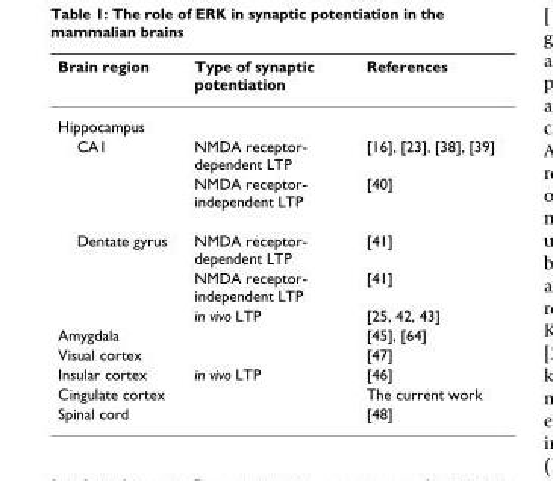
<table><thead><tr><td>Brain region</td><td>Type of synaptic potentiation</td><td>References</td></tr></thead><tbody><tr><td colspan="3">Hippocampus</td></tr><tr><td rowspan="2">CA1</td><td>NMDA receptor- dependent LTP</td><td>[16], [23], [38], [39]</td></tr><tr><td>NMDA receptor- independent LTP</td><td>[40]</td></tr><tr><td rowspan="3">Dentate gyrus</td><td>NMDA receptor- dependent LTP</td><td>[41]</td></tr><tr><td>NMDA receptor- independent LTP</td><td>[41]</td></tr><tr><td>in vivo LTP</td><td>[25, 42, 43]</td></tr><tr><td>Amygdala</td><td></td><td>[45], [64]</td></tr><tr><td>Visual cortex</td><td></td><td>[47]</td></tr><tr><td>Insular cortex</td><td>in vivo LTP</td><td>[46]</td></tr><tr><td>Cingulate cortex</td><td></td><td>The current work</td></tr><tr><td>Spinal cord</td><td></td><td>[48]</td></tr></tbody></table>